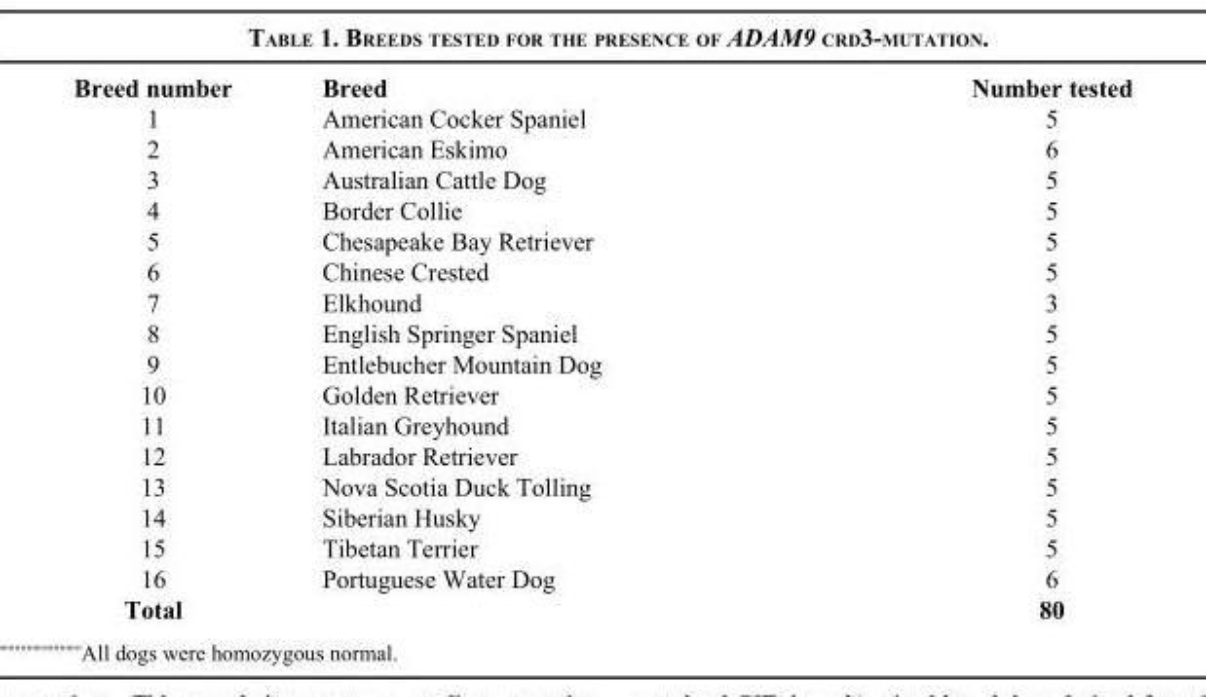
<table><thead><tr><td>Breed number</td><td>Breed</td><td>Number tested</td></tr></thead><tbody><tr><td>1</td><td>American Cocker Spaniel</td><td>5</td></tr><tr><td>2</td><td>American Eskimo</td><td>6</td></tr><tr><td>3</td><td>Australian Cattle Dog</td><td>5</td></tr><tr><td>4</td><td>Border Collie</td><td>5</td></tr><tr><td>5</td><td>Chesapeake Bay Retriever</td><td>5</td></tr><tr><td>6</td><td>Chinese Crested</td><td>5</td></tr><tr><td>7</td><td>Elkhound</td><td>3</td></tr><tr><td>8</td><td>English Springer Spaniel</td><td>5</td></tr><tr><td>9</td><td>Entlebucher Mountain Dog</td><td>5</td></tr><tr><td>10</td><td>Golden Retriever</td><td>5</td></tr><tr><td>11</td><td>Italian Greyhound</td><td>5</td></tr><tr><td>12</td><td>Labrador Retriever</td><td>5</td></tr><tr><td>13</td><td>Nova Scotia Duck Tolling</td><td>5</td></tr><tr><td>14</td><td>Siberian Husky</td><td>5</td></tr><tr><td>15</td><td>Tibetan Terrier</td><td>5</td></tr><tr><td>16</td><td>Portuguese Water Dog</td><td>6</td></tr><tr><td>Total</td><td></td><td>80</td></tr></tbody></table>